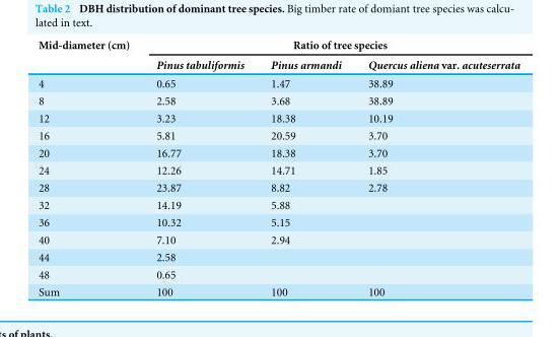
<table><thead><tr><td rowspan="2">Mid-diameter (cm)</td><td colspan="3">Ratio of tree species</td></tr><tr><td>Pinus tabuliformis</td><td>Pinus armandi</td><td>Quercus aliena var. acuteserrata</td></tr></thead><tbody><tr><td>4</td><td>0.65</td><td>1.47</td><td>38.89</td></tr><tr><td>8</td><td>2.58</td><td>3.68</td><td>38.89</td></tr><tr><td>12</td><td>3.23</td><td>18.38</td><td>10.19</td></tr><tr><td>16</td><td>5.81</td><td>20.59</td><td>3.70</td></tr><tr><td>20</td><td>16.77</td><td>18.38</td><td>3.70</td></tr><tr><td>24</td><td>12.26</td><td>14.71</td><td>1.85</td></tr><tr><td>28</td><td>23.87</td><td>8.82</td><td>2.78</td></tr><tr><td>32</td><td>14.19</td><td>5.88</td><td></td></tr><tr><td>36</td><td>10.32</td><td>5.15</td><td></td></tr><tr><td>40</td><td>7.10</td><td>2.94</td><td></td></tr><tr><td>44</td><td>2.58</td><td></td><td></td></tr><tr><td>48</td><td>0.65</td><td></td><td></td></tr><tr><td>Sum</td><td>100</td><td>100</td><td>100</td></tr></tbody></table>